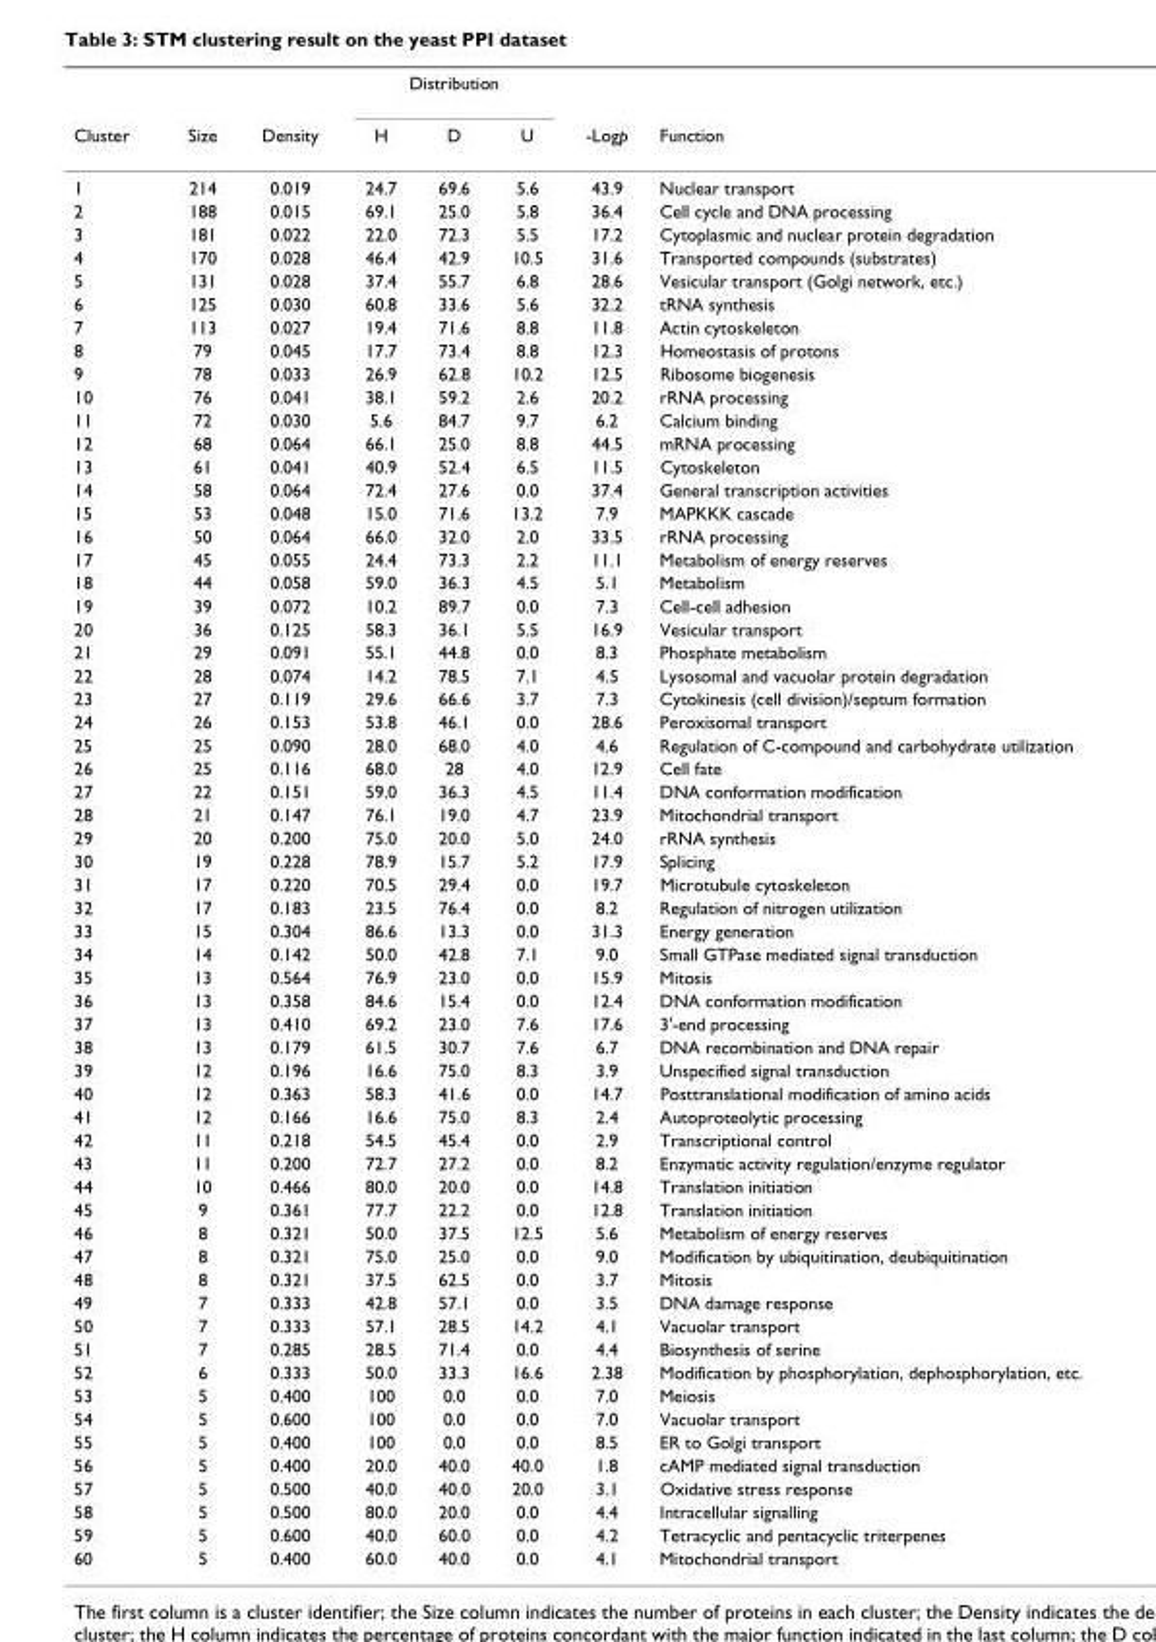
<table><thead><tr><td rowspan="2">Cluster</td><td rowspan="2">Size</td><td rowspan="2">Density</td><td colspan="3">Distribution</td><td rowspan="2">-Logp</td><td rowspan="2">Function</td></tr><tr><td>H</td><td>D</td><td>U</td></tr></thead><tbody><tr><td>1</td><td>214</td><td>0.019</td><td>24.7</td><td>69.6</td><td>5.6</td><td>43.9</td><td>Nuclear transport</td></tr><tr><td>2</td><td>188</td><td>0.015</td><td>69.1</td><td>25.0</td><td>5.8</td><td>36.4</td><td>Cell cycle and DNA processing</td></tr><tr><td>3</td><td>181</td><td>0.022</td><td>22.0</td><td>72.3</td><td>5.5</td><td>17.2</td><td>Cytoplasmic and nuclear protein degradation</td></tr><tr><td>4</td><td>170</td><td>0.028</td><td>46.4</td><td>42.9</td><td>10.5</td><td>31.6</td><td>Transported compounds (substrates)</td></tr><tr><td>5</td><td>131</td><td>0.028</td><td>37.4</td><td>55.7</td><td>6.8</td><td>28.6</td><td>Vesicular transport (Golgi network, etc.)</td></tr><tr><td>6</td><td>125</td><td>0.030</td><td>60.8</td><td>33.6</td><td>5.6</td><td>32.2</td><td>tRNA synthesis</td></tr><tr><td>7</td><td>113</td><td>0.027</td><td>19.4</td><td>71.6</td><td>8.8</td><td>11.8</td><td>Actin cytoskeleton</td></tr><tr><td>8</td><td>79</td><td>0.045</td><td>17.7</td><td>73.4</td><td>8.8</td><td>12.3</td><td>Homeostasis of protons</td></tr><tr><td>9</td><td>78</td><td>0.033</td><td>26.9</td><td>62.8</td><td>10.2</td><td>12.5</td><td>Ribosome biogenesis</td></tr><tr><td>10</td><td>76</td><td>0.041</td><td>38.1</td><td>59.2</td><td>2.6</td><td>20.2</td><td>rRNA processing</td></tr><tr><td>11</td><td>72</td><td>0.030</td><td>5.6</td><td>84.7</td><td>9.7</td><td>6.2</td><td>Calcium binding</td></tr><tr><td>12</td><td>68</td><td>0.064</td><td>66.1</td><td>25.0</td><td>8.8</td><td>44.5</td><td>mRNA processing</td></tr><tr><td>13</td><td>61</td><td>0.041</td><td>40.9</td><td>52.4</td><td>6.5</td><td>11.5</td><td>Cytoskeleton</td></tr><tr><td>14</td><td>58</td><td>0.064</td><td>72.4</td><td>27.6</td><td>0.0</td><td>37.4</td><td>General transcription activities</td></tr><tr><td>15</td><td>53</td><td>0.048</td><td>15.0</td><td>71.6</td><td>13.2</td><td>7.9</td><td>MAPKKK cascade</td></tr><tr><td>16</td><td>50</td><td>0.064</td><td>66.0</td><td>32.0</td><td>2.0</td><td>33.5</td><td>rRNA processing</td></tr><tr><td>17</td><td>45</td><td>0.055</td><td>24.4</td><td>73.3</td><td>2.2</td><td>11.1</td><td>Metabolism of energy reserves</td></tr><tr><td>18</td><td>44</td><td>0.058</td><td>59.0</td><td>36.3</td><td>4.5</td><td>5.1</td><td>Metabolism</td></tr><tr><td>19</td><td>39</td><td>0.072</td><td>10.2</td><td>89.7</td><td>0.0</td><td>7.3</td><td>Cell-cell adhesion</td></tr><tr><td>20</td><td>36</td><td>0.125</td><td>58.3</td><td>36.1</td><td>5.5</td><td>16.9</td><td>Vesicular transport</td></tr><tr><td>21</td><td>29</td><td>0.091</td><td>55.1</td><td>44.8</td><td>0.0</td><td>8.3</td><td>Phosphate metabolism</td></tr><tr><td>22</td><td>28</td><td>0.074</td><td>14.2</td><td>78.5</td><td>7.1</td><td>4.5</td><td>Lysosomal and vacuolar protein degradation</td></tr><tr><td>23</td><td>27</td><td>0.119</td><td>29.6</td><td>66.6</td><td>3.7</td><td>7.3</td><td>Cytokinesis (cell division)/septum formation</td></tr><tr><td>24</td><td>26</td><td>0.153</td><td>53.8</td><td>46.1</td><td>0.0</td><td>28.6</td><td>Peroxisomal transport</td></tr><tr><td>25</td><td>25</td><td>0.090</td><td>28.0</td><td>68.0</td><td>4.0</td><td>4.6</td><td>Regulation of C-compound and carbohydrate utilization</td></tr><tr><td>26</td><td>25</td><td>0.116</td><td>68.0</td><td>28</td><td>4.0</td><td>12.9</td><td>Cell fate</td></tr><tr><td>27</td><td>22</td><td>0.151</td><td>59.0</td><td>36.3</td><td>4.5</td><td>11.4</td><td>DNA conformation modification</td></tr><tr><td>28</td><td>21</td><td>0.147</td><td>76.1</td><td>19.0</td><td>4.7</td><td>23.9</td><td>Mitochondrial transport</td></tr><tr><td>29</td><td>20</td><td>0.200</td><td>75.0</td><td>20.0</td><td>5.0</td><td>24.0</td><td>rRNA synthesis</td></tr><tr><td>30</td><td>19</td><td>0.228</td><td>78.9</td><td>15.7</td><td>5.2</td><td>17.9</td><td>Splicing</td></tr><tr><td>31</td><td>17</td><td>0.220</td><td>70.5</td><td>29.4</td><td>0.0</td><td>19.7</td><td>Microtubule cytoskeleton</td></tr><tr><td>32</td><td>17</td><td>0.183</td><td>23.5</td><td>76.4</td><td>0.0</td><td>8.2</td><td>Regulation of nitrogen utilization</td></tr><tr><td>33</td><td>15</td><td>0.304</td><td>86.6</td><td>13.3</td><td>0.0</td><td>31.3</td><td>Energy generation</td></tr><tr><td>34</td><td>14</td><td>0.142</td><td>50.0</td><td>42.8</td><td>7.1</td><td>9.0</td><td>Small GTPase mediated signal transduction</td></tr><tr><td>35</td><td>13</td><td>0.564</td><td>76.9</td><td>23.0</td><td>0.0</td><td>15.9</td><td>Mitosis</td></tr><tr><td>36</td><td>13</td><td>0.358</td><td>84.6</td><td>15.4</td><td>0.0</td><td>12.4</td><td>DNA conformation modification</td></tr><tr><td>37</td><td>13</td><td>0.410</td><td>69.2</td><td>23.0</td><td>7.6</td><td>17.6</td><td>3&#x27;-end processing</td></tr><tr><td>38</td><td>13</td><td>0.179</td><td>61.5</td><td>30.7</td><td>7.6</td><td>6.7</td><td>DNA recombination and DNA repair</td></tr><tr><td>39</td><td>12</td><td>0.196</td><td>16.6</td><td>75.0</td><td>8.3</td><td>3.9</td><td>Unspecified signal transduction</td></tr><tr><td>40</td><td>12</td><td>0.363</td><td>58.3</td><td>41.6</td><td>0.0</td><td>14.7</td><td>Posttranslational modification of amino acids</td></tr><tr><td>41</td><td>12</td><td>0.166</td><td>16.6</td><td>75.0</td><td>8.3</td><td>2.4</td><td>Autoproteolytic processing</td></tr><tr><td>42</td><td>11</td><td>0.218</td><td>54.5</td><td>45.4</td><td>0.0</td><td>2.9</td><td>Transcriptional control</td></tr><tr><td>43</td><td>11</td><td>0.200</td><td>72.7</td><td>27.2</td><td>0.0</td><td>8.2</td><td>Enzymatic activity regulation/enzyme regulator</td></tr><tr><td>44</td><td>10</td><td>0.466</td><td>80.0</td><td>20.0</td><td>0.0</td><td>14.8</td><td>Translation initiation</td></tr><tr><td>45</td><td>9</td><td>0.361</td><td>77.7</td><td>22.2</td><td>0.0</td><td>12.8</td><td>Translation initiation</td></tr><tr><td>46</td><td>8</td><td>0.321</td><td>50.0</td><td>37.5</td><td>12.5</td><td>5.6</td><td>Metabolism of energy reserves</td></tr><tr><td>47</td><td>8</td><td>0.321</td><td>75.0</td><td>25.0</td><td>0.0</td><td>9.0</td><td>Modification by ubiquitination, deubiquitination</td></tr><tr><td>48</td><td>8</td><td>0.321</td><td>37.5</td><td>62.5</td><td>0.0</td><td>3.7</td><td>Mitosis</td></tr><tr><td>49</td><td>7</td><td>0.333</td><td>42.8</td><td>57.1</td><td>0.0</td><td>3.5</td><td>DNA damage response</td></tr><tr><td>50</td><td>7</td><td>0.333</td><td>57.1</td><td>28.5</td><td>14.2</td><td>4.1</td><td>Vacuolar transport</td></tr><tr><td>51</td><td>7</td><td>0.285</td><td>28.5</td><td>71.4</td><td>0.0</td><td>4.4</td><td>Biosynthesis of serine</td></tr><tr><td>52</td><td>6</td><td>0.333</td><td>50.0</td><td>33.3</td><td>16.6</td><td>2.38</td><td>Modification by phosphorylation, dephosphorylation, etc.</td></tr><tr><td>53</td><td>5</td><td>0.400</td><td>100</td><td>0.0</td><td>0.0</td><td>7.0</td><td>Meiosis</td></tr><tr><td>54</td><td>5</td><td>0.600</td><td>100</td><td>0.0</td><td>0.0</td><td>7.0</td><td>Vacuolar transport</td></tr><tr><td>55</td><td>5</td><td>0.400</td><td>100</td><td>0.0</td><td>0.0</td><td>8.5</td><td>ER to Golgi transport</td></tr><tr><td>56</td><td>5</td><td>0.400</td><td>20.0</td><td>40.0</td><td>40.0</td><td>1.8</td><td>cAMP mediated signal transduction</td></tr><tr><td>57</td><td>5</td><td>0.500</td><td>40.0</td><td>40.0</td><td>20.0</td><td>3.1</td><td>Oxidative stress response</td></tr><tr><td>58</td><td>5</td><td>0.500</td><td>80.0</td><td>20.0</td><td>0.0</td><td>4.4</td><td>Intracellular signalling</td></tr><tr><td>59</td><td>5</td><td>0.600</td><td>40.0</td><td>60.0</td><td>0.0</td><td>4.2</td><td>Tetracyclic and pentacyclic triterpenes</td></tr><tr><td>60</td><td>5</td><td>0.400</td><td>60.0</td><td>40.0</td><td>0.0</td><td>4.1</td><td>Mitochondrial transport</td></tr></tbody></table>